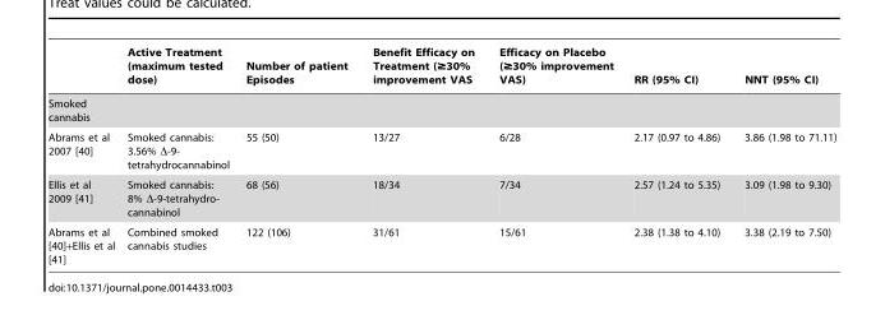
<table><thead><tr><td></td><td>Active Treatment (maximum tested dose)</td><td>Number of patient Episodes</td><td>Benefit Efficacy on Treatment (≥30% improvement VAS</td><td>Efficacy on Placebo (≥30% improvement VAS)</td><td>RR (95% CI)</td><td>NNT (95% CI)</td></tr></thead><tbody><tr><td colspan="7">Smoked cannabis</td></tr><tr><td>Abrams et al 2007 [40]</td><td>Smoked cannabis: 3.56% Δ-9- tetrahydrocannabinol</td><td>55 (50)</td><td>13/27</td><td>6/28</td><td>2.17 (0.97 to 4.86)</td><td>3.86 (1.98 to 71.11)</td></tr><tr><td>Ellis et al 2009 [41]</td><td>Smoked cannabis: 8% D-9-tetrahydro- cannabinol</td><td>68 (56)</td><td>18/34</td><td>7/34</td><td>2.57 (1.24 to 5.35)</td><td>3.09 (1.98 to 9.30)</td></tr><tr><td>Abrams et al [40]+Ellis et al [41]</td><td>Combined smoked cannabis studies</td><td>122 (106)</td><td>31/61</td><td>15/61</td><td>2.38 (1.38 to 4.10)</td><td>3.38 (2.19 to 7.50)</td></tr></tbody></table>